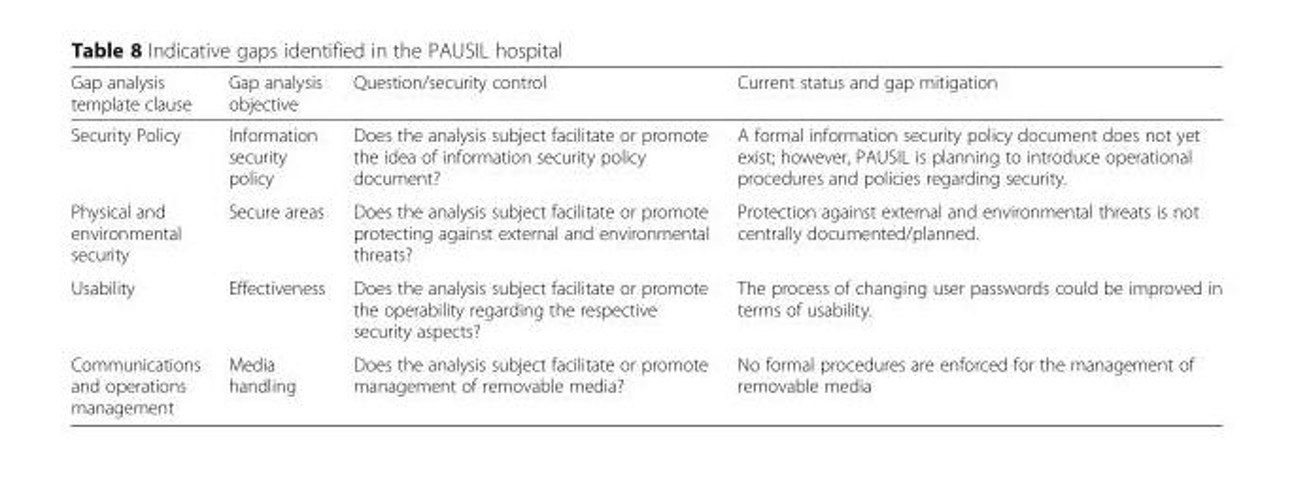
<table><thead><tr><td>Gap analysis template clause</td><td>Gap analysis objective</td><td>Question/security control</td><td>Current status and gap mitigation</td></tr></thead><tbody><tr><td>Security Policy</td><td>Information security policy</td><td>Does the analysis subject facilitate or promote the idea of information security policy document?</td><td>A formal information security policy document does not yet exist; however, PAUSIL is planning to introduce operational procedures and policies regarding security.</td></tr><tr><td>Physical and environmental security</td><td>Secure areas</td><td>Does the analysis subject facilitate or promote protecting against external and environmental threats?</td><td>Protection against external and environmental threats is not centrally documented/planned.</td></tr><tr><td>Usability</td><td>Effectiveness</td><td>Does the analysis subject facilitate or promote the operability regarding the respective security aspects?</td><td>The process of changing user passwords could be improved in terms of usability.</td></tr><tr><td>Communications and operations management</td><td>Media handling</td><td>Does the analysis subject facilitate or promote management of removable media?</td><td>No formal procedures are enforced for the management of removable media</td></tr></tbody></table>